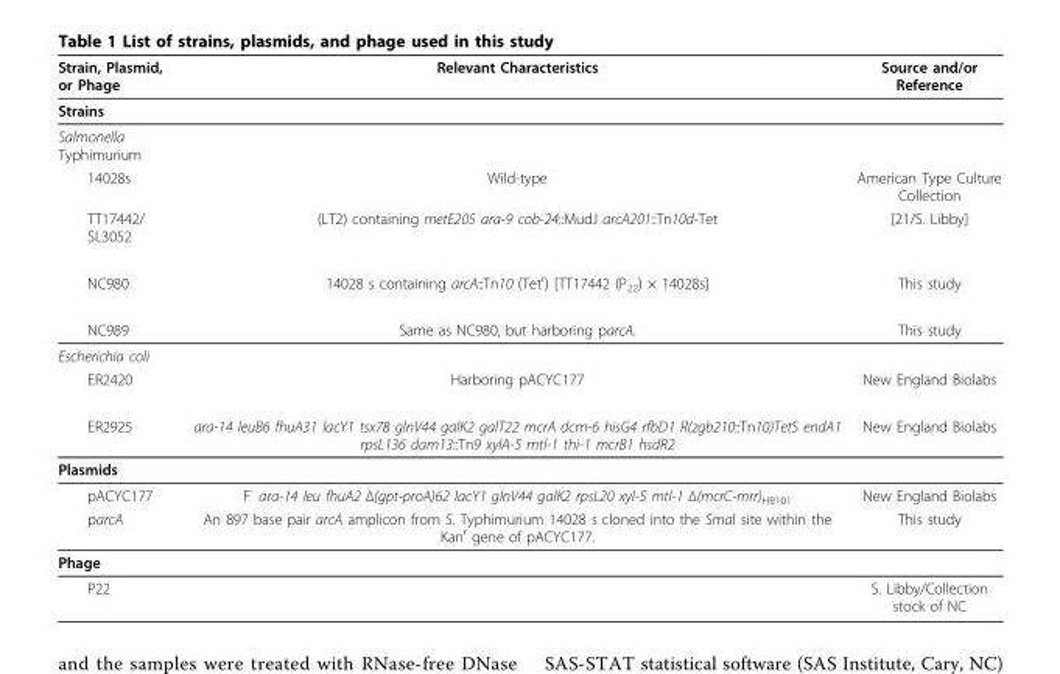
<table><thead><tr><td>Strain, Plasmid, or Phage</td><td>Relevant Characteristics</td><td>Source and/or Reference</td></tr></thead><tbody><tr><td colspan="3">Strains</td></tr><tr><td colspan="3">Salmonella Typhimurium</td></tr><tr><td>14028s</td><td>Wild-type</td><td>American Type Culture Collection</td></tr><tr><td>TT17442/ SL3052</td><td>(LT2) containing metE205 ara-9 cob-24::MudJ arcA201::Tn10d-Tet</td><td>[21/S. Libby]</td></tr><tr><td>NC980</td><td>14028 s containing arcA::Tn10 (Tet<sup>r</sup>) [TT17442 (P<sub>22</sub>) × 14028s]</td><td>This study</td></tr><tr><td>NC989</td><td>Same as NC980, but harboring parcA.</td><td>This study</td></tr><tr><td colspan="3">Escherichia coli</td></tr><tr><td>ER2420</td><td>Harboring pACYC177</td><td>New England Biolabs</td></tr><tr><td>ER2925</td><td>ara-14 leuB6 fhuA31 lacY1 tsx78 glnV44 galK2 galT22 mcrA dcm-6 hisG4 rfbD1 R(zgb210::Tn10)TetS endA1 rpsL136 dam13::Tn9 xylA-5 mtl-1 thi-1 mcrB1 hsdR2</td><td>New England Biolabs</td></tr><tr><td colspan="3">Plasmids</td></tr><tr><td>pACYC177</td><td>F<sup>-</sup> ara-14 leu fhuA2 Δ(gpt-proA)62 lacY1 glnV44 galK2 rpsL20 xyl-5 mtl-1 Δ(mcrC-mrr)<sub>HB101</sub></td><td>New England Biolabs</td></tr><tr><td>parcA</td><td>An 897 base pair arcA amplicon from S. Typhimurium 14028 s cloned into the SmaI site within the Kan<sup>r</sup> gene of pACYC177.</td><td>This study</td></tr><tr><td colspan="3">Phage</td></tr><tr><td>P22</td><td></td><td>S. Libby/Collection stock of NC</td></tr></tbody></table>